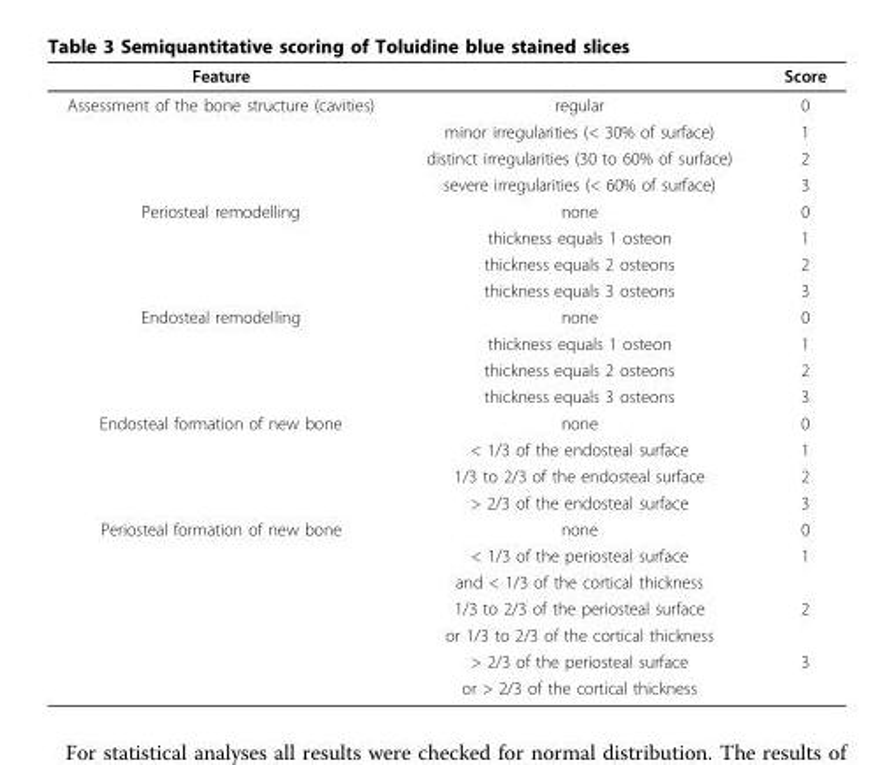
<table><thead><tr><td>Feature</td><td></td><td>Score</td></tr></thead><tbody><tr><td rowspan="4">Assessment of the bone structure (cavities)</td><td>regular</td><td>0</td></tr><tr><td>minor irregularities (&lt; 30% of surface)</td><td>1</td></tr><tr><td>distinct irregularities (30 to 60% of surface)</td><td>2</td></tr><tr><td>severe irregularities (&lt; 60% of surface)</td><td>3</td></tr><tr><td rowspan="4">Periosteal remodelling</td><td>none</td><td>0</td></tr><tr><td>thickness equals 1 osteon</td><td>1</td></tr><tr><td>thickness equals 2 osteons</td><td>2</td></tr><tr><td>thickness equals 3 osteons</td><td>3</td></tr><tr><td rowspan="4">Endosteal remodelling</td><td>none</td><td>0</td></tr><tr><td>thickness equals 1 osteon</td><td>1</td></tr><tr><td>thickness equals 2 osteons</td><td>2</td></tr><tr><td>thickness equals 3 osteons</td><td>3</td></tr><tr><td rowspan="4">Endosteal formation of new bone</td><td>none</td><td>0</td></tr><tr><td>&lt; 1/3 of the endosteal surface</td><td>1</td></tr><tr><td>1/3 to 2/3 of the endosteal surface</td><td>2</td></tr><tr><td>&gt; 2/3 of the endosteal surface</td><td>3</td></tr><tr><td rowspan="7">Periosteal formation of new bone</td><td>none</td><td>0</td></tr><tr><td>&lt; 1/3 of the periosteal surface</td><td>1</td></tr><tr><td>and &lt; 1/3 of the cortical thickness</td><td></td></tr><tr><td>1/3 to 2/3 of the periosteal surface</td><td>2</td></tr><tr><td>or 1/3 to 2/3 of the cortical thickness</td><td></td></tr><tr><td>&gt; 2/3 of the periosteal surface</td><td>3</td></tr><tr><td>or &gt; 2/3 of the cortical thickness</td><td></td></tr></tbody></table>